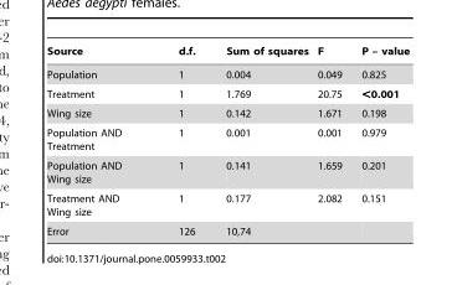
<table><thead><tr><td>Source</td><td>d.f.</td><td>Sum of squares</td><td>F</td><td>P – value</td></tr></thead><tbody><tr><td>Population</td><td>1</td><td>0.004</td><td>0.049</td><td>0.825</td></tr><tr><td>Treatment</td><td>1</td><td>1.769</td><td>20.75</td><td>&lt;0.001</td></tr><tr><td>Wing size</td><td>1</td><td>0.142</td><td>1.671</td><td>0.198</td></tr><tr><td>Population AND Treatment</td><td>1</td><td>0.001</td><td>0.001</td><td>0.979</td></tr><tr><td>Population AND Wing size</td><td>1</td><td>0.141</td><td>1.659</td><td>0.201</td></tr><tr><td>Treatment AND Wing size</td><td>1</td><td>0.177</td><td>2.082</td><td>0.151</td></tr><tr><td>Error</td><td>126</td><td>10,74</td><td></td><td></td></tr></tbody></table>